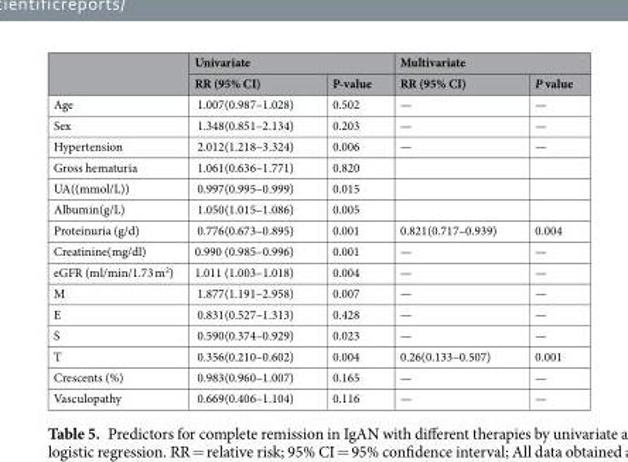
<table><thead><tr><td rowspan="2"></td><td colspan="2">Univariate</td><td colspan="2">Multivariate</td></tr><tr><td>RR (95% CI)</td><td>P-value</td><td>RR (95% CI)</td><td>P value</td></tr></thead><tbody><tr><td>Age</td><td>1.007(0.987–1.028)</td><td>0.502</td><td>—</td><td>—</td></tr><tr><td>Sex</td><td>1.348(0.851–2.134)</td><td>0.203</td><td>—</td><td>—</td></tr><tr><td>Hypertension</td><td>2.012(1.218–3.324)</td><td>0.006</td><td>—</td><td>—</td></tr><tr><td>Gross hematuria</td><td>1.061(0.636–1.771)</td><td>0.820</td><td></td><td></td></tr><tr><td>UA((mmol/L))</td><td>0.997(0.995–0.999)</td><td>0.015</td><td></td><td></td></tr><tr><td>Albumin(g/L)</td><td>1.050(1.015–1.086)</td><td>0.005</td><td></td><td></td></tr><tr><td>Proteinuria (g/d)</td><td>0.776(0.673–0.895)</td><td>0.001</td><td>0.821(0.717–0.939)</td><td>0.004</td></tr><tr><td>Creatinine(mg/dl)</td><td>0.990 (0.985–0.996)</td><td>0.001</td><td>—</td><td>—</td></tr><tr><td>eGFR (ml/min/1.73 m<sup>2</sup>)</td><td>1.011 (1.003–1.018)</td><td>0.004</td><td>—</td><td>—</td></tr><tr><td>M</td><td>1.877(1.191–2.958)</td><td>0.007</td><td>—</td><td>—</td></tr><tr><td>E</td><td>0.831(0.527–1.313)</td><td>0.428</td><td>—</td><td>—</td></tr><tr><td>S</td><td>0.590(0.374–0.929)</td><td>0.023</td><td>—</td><td>—</td></tr><tr><td>T</td><td>0.356(0.210–0.602)</td><td>0.004</td><td>0.26(0.133–0.507)</td><td>0.001</td></tr><tr><td>Crescents (%)</td><td>0.983(0.960–1.007)</td><td>0.165</td><td>—</td><td>—</td></tr><tr><td>Vasculopathy</td><td>0.669(0.406–1.104)</td><td>0.116</td><td>—</td><td>—</td></tr></tbody></table>